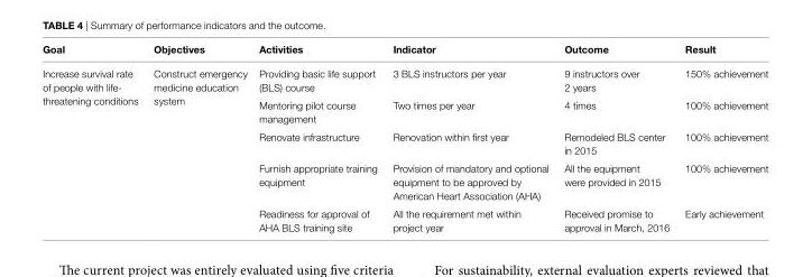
<table><thead><tr><td>Goal</td><td>objectives</td><td>activities</td><td>indicator</td><td>outcome</td><td>Result</td></tr></thead><tbody><tr><td rowspan="5">Increase survival rate of people with life- threatening conditions</td><td rowspan="5">Construct emergency medicine education system</td><td>Providing basic life support (BLS) course</td><td>3 BLS instructors per year</td><td>9 instructors over 2 years</td><td>150% achievement</td></tr><tr><td>Mentoring pilot course management</td><td>Two times per year</td><td>4 times</td><td>100% achievement</td></tr><tr><td>Renovate infrastructure</td><td>Renovation within first year</td><td>Remodeled BLS center in 2015</td><td>100% achievement</td></tr><tr><td>Furnish appropriate training equipment</td><td>Provision of mandatory and optional equipment to be approved by American Heart Association (AHA)</td><td>All the equipment were provided in 2015</td><td>100% achievement</td></tr><tr><td>Readiness for approval of AHA BLS training site</td><td>All the requirement met within project year</td><td>Received promise to approval in March, 2016</td><td>Early achievement</td></tr></tbody></table>